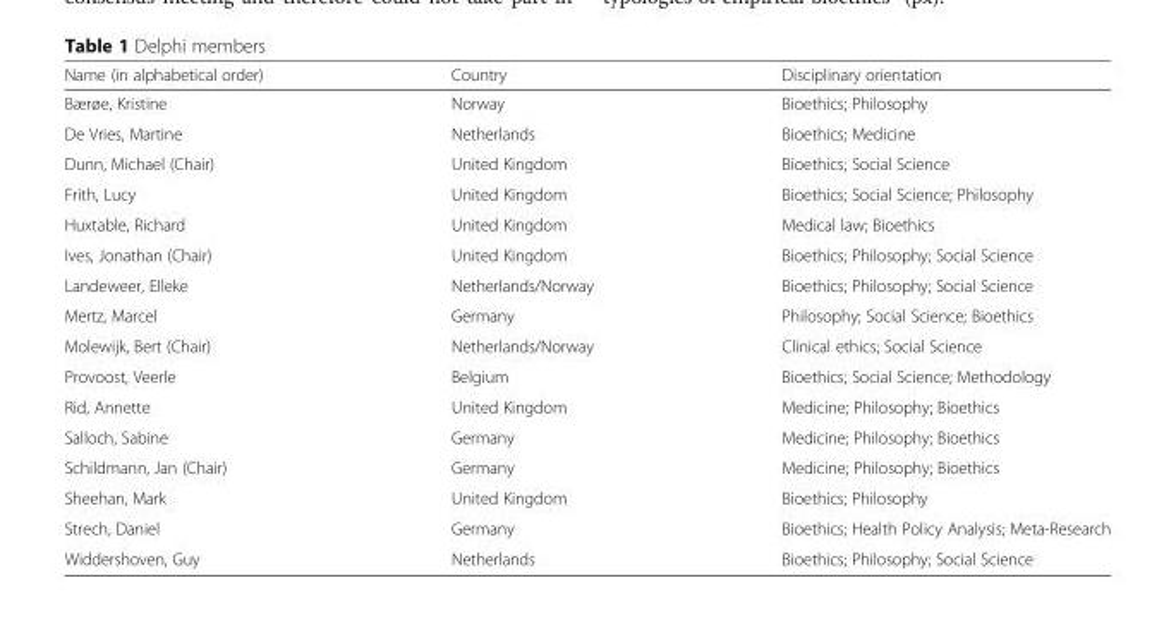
<table><thead><tr><td>Name (in alphabetical order)</td><td>Country</td><td>Disciplinary orientation</td></tr></thead><tbody><tr><td>Bærøe, Kristine</td><td>Norway</td><td>Bioethics; Philosophy</td></tr><tr><td>De Vries, Martine</td><td>Netherlands</td><td>Bioethics; Medicine</td></tr><tr><td>Dunn, Michael (Chair)</td><td>United Kingdom</td><td>Bioethics; Social Science</td></tr><tr><td>Frith, Lucy</td><td>United Kingdom</td><td>Bioethics; Social Science; Philosophy</td></tr><tr><td>Huxtable, Richard</td><td>United Kingdom</td><td>Medical law; Bioethics</td></tr><tr><td>Ives, Jonathan (Chair)</td><td>United Kingdom</td><td>Bioethics; Philosophy; Social Science</td></tr><tr><td>Landeweer, Elleke</td><td>Netherlands/Norway</td><td>Bioethics; Philosophy; Social Science</td></tr><tr><td>Mertz, Marcel</td><td>Germany</td><td>Philosophy; Social Science; Bioethics</td></tr><tr><td>Molewijk, Bert (Chair)</td><td>Netherlands/Norway</td><td>Clinical ethics; Social Science</td></tr><tr><td>Provoost, Veerle</td><td>Belgium</td><td>Bioethics; Social Science; Methodology</td></tr><tr><td>Rid, Annette</td><td>United Kingdom</td><td>Medicine; Philosophy; Bioethics</td></tr><tr><td>Salloch, Sabine</td><td>Germany</td><td>Medicine; Philosophy; Bioethics</td></tr><tr><td>Schildmann, Jan (Chair)</td><td>Germany</td><td>Medicine; Philosophy; Bioethics</td></tr><tr><td>Sheehan, Mark</td><td>United Kingdom</td><td>Bioethics; Philosophy</td></tr><tr><td>Strech, Daniel</td><td>Germany</td><td>Bioethics; Health Policy Analysis; Meta-Research</td></tr><tr><td>Widdershoven, Guy</td><td>Netherlands</td><td>Bioethics; Philosophy; Social Science</td></tr></tbody></table>